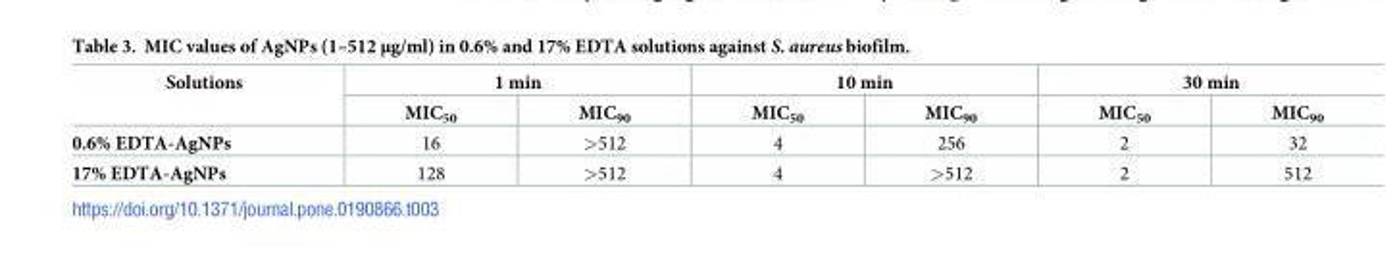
<table><thead><tr><td rowspan="2">Solutions</td><td colspan="2">1 min</td><td colspan="2">10 min</td><td colspan="2">30 min</td></tr><tr><td>MIC<sub>50</sub></td><td>MIC<sub>90</sub></td><td>MIC<sub>50</sub></td><td>MIC<sub>90</sub></td><td>MIC<sub>50</sub></td><td>MIC<sub>90</sub></td></tr></thead><tbody><tr><td>0.6% EDTA-AgNPs</td><td>16</td><td>&gt;512</td><td>4</td><td>256</td><td>2</td><td>32</td></tr><tr><td>17% EDTA-AgNPs</td><td>128</td><td>&gt;512</td><td>4</td><td>&gt;512</td><td>2</td><td>512</td></tr></tbody></table>